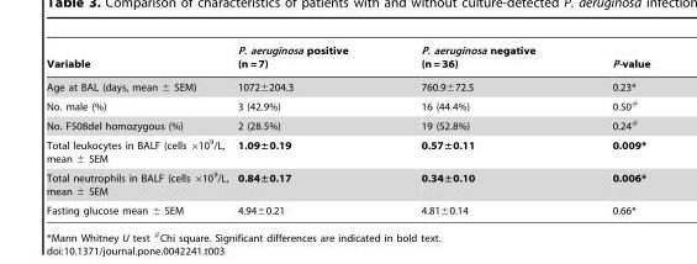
<table><thead><tr><td>Variable</td><td>P. aeruginosa positive (n = 7)</td><td>P. aeruginosa negative (n = 36)</td><td>P-value</td></tr></thead><tbody><tr><td>Age at BAL (days, mean ± SEM)</td><td>1072±204.3</td><td>760.9±72.5</td><td>0.23*</td></tr><tr><td>No. male (%)</td><td>3 (42.9%)</td><td>16 (44.4%)</td><td>0.50<sup>#</sup></td></tr><tr><td>No. F508del homozygous (%)</td><td>2 (28.5%)</td><td>19 (52.8%)</td><td>0.24<sup>#</sup></td></tr><tr><td>Total leukocytes in BALF (cells ×10<sup>9</sup>/L, mean ± SEM</td><td>1.09±0.19</td><td>0.57±0.11</td><td>0.009*</td></tr><tr><td>Total neutrophils in BALF (cells ×10<sup>9</sup>/L, mean ± SEM</td><td>0.84±0.17</td><td>0.34±0.10</td><td>0.006*</td></tr><tr><td>Fasting glucose mean ± SEM</td><td>4.94±0.21</td><td>4.81±0.14</td><td>0.66*</td></tr></tbody></table>